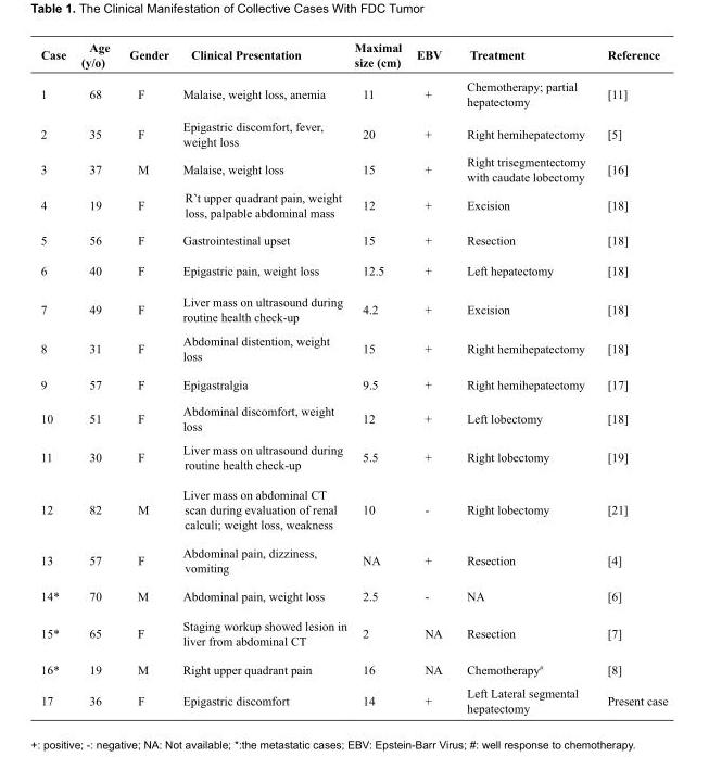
<table><thead><tr><td>Case</td><td>Age (y/o)</td><td>Gender</td><td>Clinical Presentation</td><td>Maximal size (cm)</td><td>EBV</td><td>Treatment</td><td>Reference</td></tr></thead><tbody><tr><td>1</td><td>68</td><td>F</td><td>Malaise, weight loss, anemia</td><td>11</td><td>+</td><td>Chemotherapy; partial hepatectomy</td><td>[11]</td></tr><tr><td>2</td><td>35</td><td>F</td><td>Epigastric discomfort, fever, weight loss</td><td>20</td><td>+</td><td>Right hemihepatectomy</td><td>[5]</td></tr><tr><td>3</td><td>37</td><td>M</td><td>Malaise, weight loss</td><td>15</td><td>+</td><td>Right trisegmentectomy with caudate lobectomy</td><td>[16]</td></tr><tr><td>4</td><td>19</td><td>F</td><td>R’t upper quadrant pain, weight loss, palpable abdominal mass</td><td>12</td><td>+</td><td>Excision</td><td>[18]</td></tr><tr><td>5</td><td>56</td><td>F</td><td>Gastrointestinal upset</td><td>15</td><td>+</td><td>Resection</td><td>[18]</td></tr><tr><td>6</td><td>40</td><td>F</td><td>Epigastric pain, weight loss</td><td>12.5</td><td>+</td><td>Left hepatectomy</td><td>[18]</td></tr><tr><td>7</td><td>49</td><td>F</td><td>Liver mass on ultrasound during routine health check-up</td><td>4.2</td><td>+</td><td>Excision</td><td>[18]</td></tr><tr><td>8</td><td>31</td><td>F</td><td>Abdominal distention, weight loss</td><td>15</td><td>+</td><td>Right hemihepatectomy</td><td>[18]</td></tr><tr><td>9</td><td>57</td><td>F</td><td>Epigastralgia</td><td>9.5</td><td>+</td><td>Right hemihepatectomy</td><td>[17]</td></tr><tr><td>10</td><td>51</td><td>F</td><td>Abdominal discomfort, weight loss</td><td>12</td><td>+</td><td>Left lobectomy</td><td>[18]</td></tr><tr><td>11</td><td>30</td><td>F</td><td>Liver mass on ultrasound during routine health check-up</td><td>5.5</td><td>+</td><td>Right lobectomy</td><td>[19]</td></tr><tr><td>12</td><td>82</td><td>M</td><td>Liver mass on abdominal CT scan during evaluation of renal calculi; weight loss, weakness</td><td>10</td><td>-</td><td>Right lobectomy</td><td>[21]</td></tr><tr><td>13</td><td>57</td><td>F</td><td>Abdominal pain, dizziness, vomiting</td><td>NA</td><td>+</td><td>Resection</td><td>[4]</td></tr><tr><td>14*</td><td>70</td><td>M</td><td>Abdominal pain, weight loss</td><td>2.5</td><td>-</td><td>NA</td><td>[6]</td></tr><tr><td>15*</td><td>65</td><td>F</td><td>Staging workup showed lesion in liver from abdominal CT</td><td>2</td><td>NA</td><td>Resection</td><td>[7]</td></tr><tr><td>16*</td><td>19</td><td>M</td><td>Right upper quadrant pain</td><td>16</td><td>NA</td><td>Chemotherapy<sup>#</sup></td><td>[8]</td></tr><tr><td>17</td><td>36</td><td>F</td><td>Epigastric discomfort</td><td>14</td><td>+</td><td>Left Lateral segmental hepatectomy</td><td>Present case</td></tr></tbody></table>